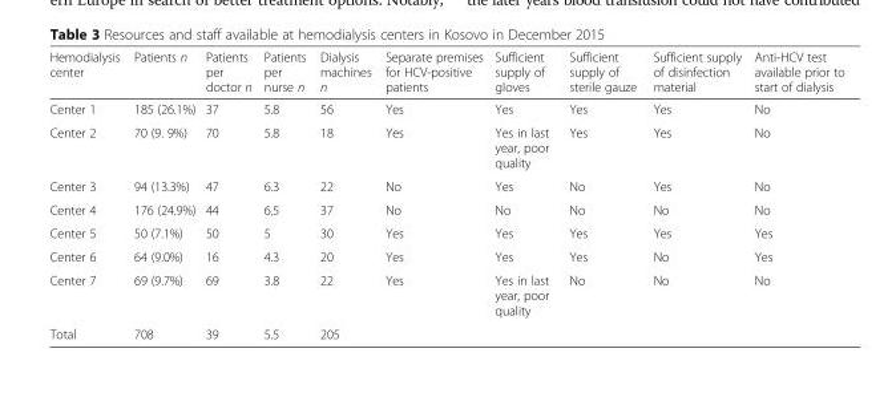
<table><thead><tr><td>Hemodialysis center</td><td>Patients n</td><td>Patients per doctor n</td><td>Patients per nurse n</td><td>Dialysis machines n</td><td>Separate premises for HCV-positive patients</td><td>Sufficient supply of gloves</td><td>Sufficient supply of sterile gauze</td><td>Sufficient supply of disinfection material</td><td>Anti-HCV test available prior to start of dialysis</td></tr></thead><tbody><tr><td>Center 1</td><td>185 (26.1%)</td><td>37</td><td>5.8</td><td>56</td><td>Yes</td><td>Yes</td><td>Yes</td><td>Yes</td><td>No</td></tr><tr><td>Center 2</td><td>70 (9. 9%)</td><td>70</td><td>5.8</td><td>18</td><td>Yes</td><td>Yes in last year, poor quality</td><td>Yes</td><td>Yes</td><td>No</td></tr><tr><td>Center 3</td><td>94 (13.3%)</td><td>47</td><td>6.3</td><td>22</td><td>No</td><td>Yes</td><td>No</td><td>Yes</td><td>No</td></tr><tr><td>Center 4</td><td>176 (24.9%)</td><td>44</td><td>6.5</td><td>37</td><td>No</td><td>No</td><td>No</td><td>No</td><td>No</td></tr><tr><td>Center 5</td><td>50 (7.1%)</td><td>50</td><td>5</td><td>30</td><td>Yes</td><td>Yes</td><td>Yes</td><td>Yes</td><td>Yes</td></tr><tr><td>Center 6</td><td>64 (9.0%)</td><td>16</td><td>4.3</td><td>20</td><td>Yes</td><td>Yes</td><td>Yes</td><td>No</td><td>Yes</td></tr><tr><td>Center 7</td><td>69 (9.7%)</td><td>69</td><td>3.8</td><td>22</td><td>Yes</td><td>Yes in last year, poor quality</td><td>No</td><td>No</td><td>No</td></tr><tr><td>Total</td><td>708</td><td>39</td><td>5.5</td><td>205</td><td></td><td></td><td></td><td></td><td></td></tr></tbody></table>